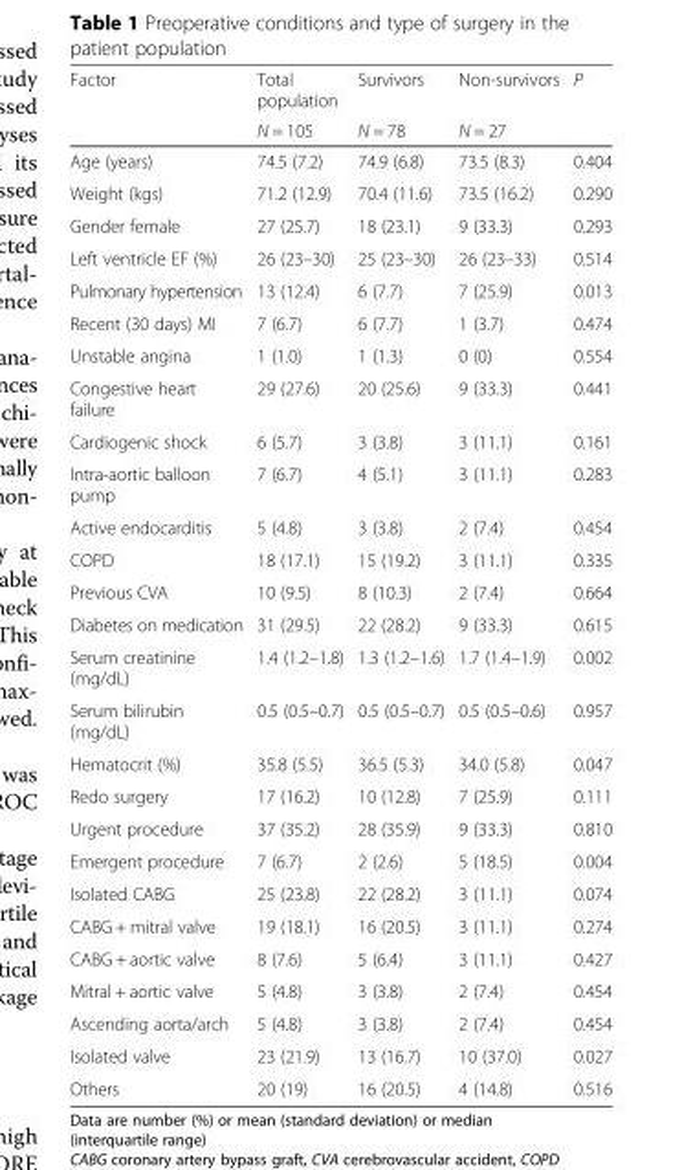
<table><thead><tr><td rowspan="2">Factor</td><td rowspan="2">Total population N = 105</td><td rowspan="2">Survivors N = 78</td><td rowspan="2">Non-survivors N = 27</td><td rowspan="2">P</td></tr><tr></tr></thead><tbody><tr><td>Age (years)</td><td>74.5 (7.2)</td><td>74.9 (6.8)</td><td>73.5 (8.3)</td><td>0.404</td></tr><tr><td>Weight (kgs)</td><td>71.2 (12.9)</td><td>70.4 (11.6)</td><td>73.5 (16.2)</td><td>0.290</td></tr><tr><td>Gender female</td><td>27 (25.7)</td><td>18 (23.1)</td><td>9 (33.3)</td><td>0.293</td></tr><tr><td>Left ventricle EF (%)</td><td>26 (23–30)</td><td>25 (23–30)</td><td>26 (23–33)</td><td>0.514</td></tr><tr><td>Pulmonary hypertension</td><td>13 (12.4)</td><td>6 (7.7)</td><td>7 (25.9)</td><td>0.013</td></tr><tr><td>Recent (30 days) MI</td><td>7 (6.7)</td><td>6 (7.7)</td><td>1 (3.7)</td><td>0.474</td></tr><tr><td>Unstable angina</td><td>1 (1.0)</td><td>1 (1.3)</td><td>0 (0)</td><td>0.554</td></tr><tr><td>Congestive heart failure</td><td>29 (27.6)</td><td>20 (25.6)</td><td>9 (33.3)</td><td>0.441</td></tr><tr><td>Cardiogenic shock</td><td>6 (5.7)</td><td>3 (3.8)</td><td>3 (11.1)</td><td>0.161</td></tr><tr><td>Intra-aortic balloon pump</td><td>7 (6.7)</td><td>4 (5.1)</td><td>3 (11.1)</td><td>0.283</td></tr><tr><td>Active endocarditis</td><td>5 (4.8)</td><td>3 (3.8)</td><td>2 (7.4)</td><td>0.454</td></tr><tr><td>COPD</td><td>18 (17.1)</td><td>15 (19.2)</td><td>3 (11.1)</td><td>0.335</td></tr><tr><td>Previous CVA</td><td>10 (9.5)</td><td>8 (10.3)</td><td>2 (7.4)</td><td>0.664</td></tr><tr><td>Diabetes on medication</td><td>31 (29.5)</td><td>22 (28.2)</td><td>9 (33.3)</td><td>0.615</td></tr><tr><td>Serum creatinine (mg/dL)</td><td>1.4 (1.2–1.8)</td><td>1.3 (1.2–1.6)</td><td>1.7 (1.4–1.9)</td><td>0.002</td></tr><tr><td>Serum bilirubin (mg/dL)</td><td>0.5 (0.5–0.7)</td><td>0.5 (0.5–0.7)</td><td>0.5 (0.5–0.6)</td><td>0.957</td></tr><tr><td>Hematocrit (%)</td><td>35.8 (5.5)</td><td>36.5 (5.3)</td><td>34.0 (5.8)</td><td>0.047</td></tr><tr><td>Redo surgery</td><td>17 (16.2)</td><td>10 (12.8)</td><td>7 (25.9)</td><td>0.111</td></tr><tr><td>Urgent procedure</td><td>37 (35.2)</td><td>28 (35.9)</td><td>9 (33.3)</td><td>0.810</td></tr><tr><td>Emergent procedure</td><td>7 (6.7)</td><td>2 (2.6)</td><td>5 (18.5)</td><td>0.004</td></tr><tr><td>Isolated CABG</td><td>25 (23.8)</td><td>22 (28.2)</td><td>3 (11.1)</td><td>0.074</td></tr><tr><td>CABG + mitral valve</td><td>19 (18.1)</td><td>16 (20.5)</td><td>3 (11.1)</td><td>0.274</td></tr><tr><td>CABG + aortic valve</td><td>8 (7.6)</td><td>5 (6.4)</td><td>3 (11.1)</td><td>0.427</td></tr><tr><td>Mitral + aortic valve</td><td>5 (4.8)</td><td>3 (3.8)</td><td>2 (7.4)</td><td>0.454</td></tr><tr><td>Ascending aorta/arch</td><td>5 (4.8)</td><td>3 (3.8)</td><td>2 (7.4)</td><td>0.454</td></tr><tr><td>Isolated valve</td><td>23 (21.9)</td><td>13 (16.7)</td><td>10 (37.0)</td><td>0.027</td></tr><tr><td>Others</td><td>20 (19)</td><td>16 (20.5)</td><td>4 (14.8)</td><td>0.516</td></tr></tbody></table>